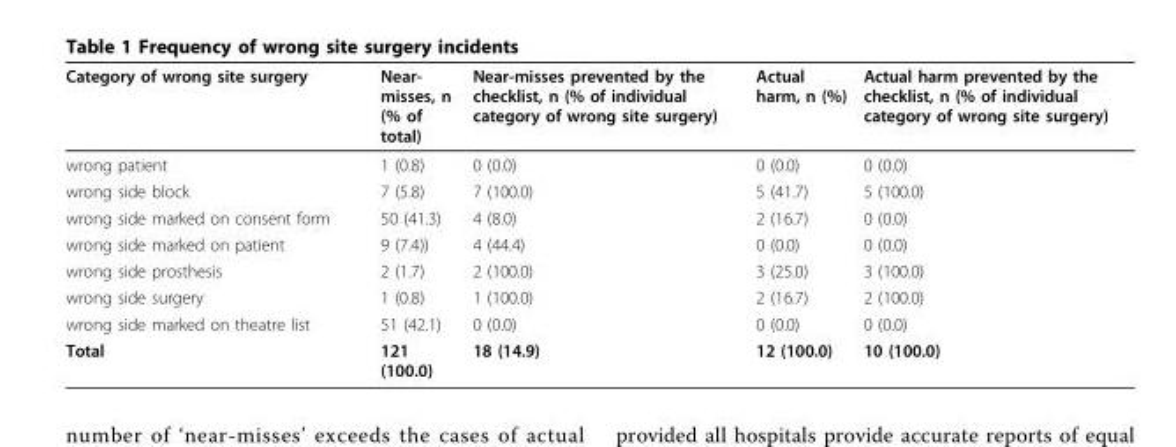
<table><thead><tr><td>Category of wrong site surgery</td><td>Near- misses, n (% of total)</td><td>Near-misses prevented by the checklist, n (% of individual category of wrong site surgery)</td><td>Actual harm, n (%)</td><td>Actual harm prevented by the checklist, n (% of individual category of wrong site surgery)</td></tr></thead><tbody><tr><td>wrong patient</td><td>1 (0.8)</td><td>0 (0.0)</td><td>0 (0.0)</td><td>0 (0.0)</td></tr><tr><td>wrong side block</td><td>7 (5.8)</td><td>7 (100.0)</td><td>5 (41.7)</td><td>5 (100.0)</td></tr><tr><td>wrong side marked on consent form</td><td>50 (41.3)</td><td>4 (8.0)</td><td>2 (16.7)</td><td>0 (0.0)</td></tr><tr><td>wrong side marked on patient</td><td>9 (7.4))</td><td>4 (44.4)</td><td>0 (0.0)</td><td>0 (0.0)</td></tr><tr><td>wrong side prosthesis</td><td>2 (1.7)</td><td>2 (100.0)</td><td>3 (25.0)</td><td>3 (100.0)</td></tr><tr><td>wrong side surgery</td><td>1 (0.8)</td><td>1 (100.0)</td><td>2 (16.7)</td><td>2 (100.0)</td></tr><tr><td>wrong side marked on theatre list</td><td>51 (42.1)</td><td>0 (0.0)</td><td>0 (0.0)</td><td>0 (0.0)</td></tr><tr><td>Total</td><td>121 (100.0)</td><td>18 (14.9)</td><td>12 (100.0)</td><td>10 (100.0)</td></tr></tbody></table>